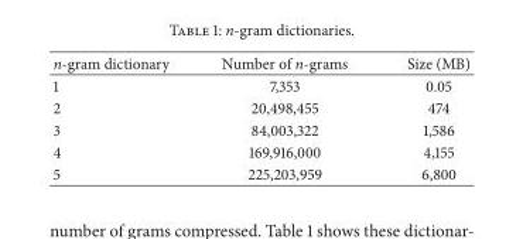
<table><thead><tr><td>n-gram dictionary</td><td>Number of n-grams</td><td>Size (MB)</td></tr></thead><tbody><tr><td>1</td><td>7,353</td><td>0.05</td></tr><tr><td>2</td><td>20,498,455</td><td>474</td></tr><tr><td>3</td><td>84,003,322</td><td>1,586</td></tr><tr><td>4</td><td>169,916,000</td><td>4,155</td></tr><tr><td>5</td><td>225,203,959</td><td>6,800</td></tr></tbody></table>